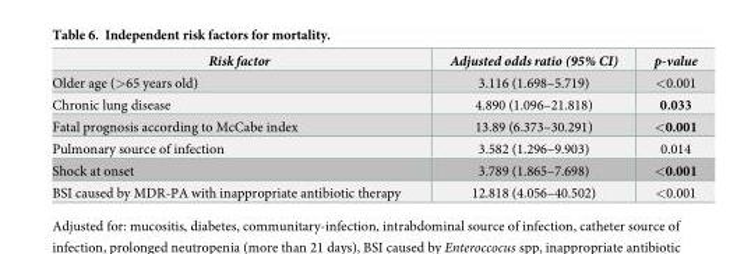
<table><thead><tr><td>Risk factor</td><td>Adjusted odds ratio (95% CI)</td><td>p-value</td></tr></thead><tbody><tr><td>Older age (&gt;65 years old)</td><td>3.116 (1.698–5.719)</td><td>&lt;0.001</td></tr><tr><td>Chronic lung disease</td><td>4.890 (1.096–21.818)</td><td>0.033</td></tr><tr><td>Fatal prognosis according to McCabe index</td><td>13.89 (6.373–30.291)</td><td>&lt;0.001</td></tr><tr><td>Pulmonary source of infection</td><td>3.582 (1.296–9.903)</td><td>0.014</td></tr><tr><td>Shock at onset</td><td>3.789 (1.865–7.698)</td><td>&lt;0.001</td></tr><tr><td>BSI caused by MDR-PA with inappropriate antibiotic therapy</td><td>12.818 (4.056–40.502)</td><td>&lt;0.001</td></tr></tbody></table>